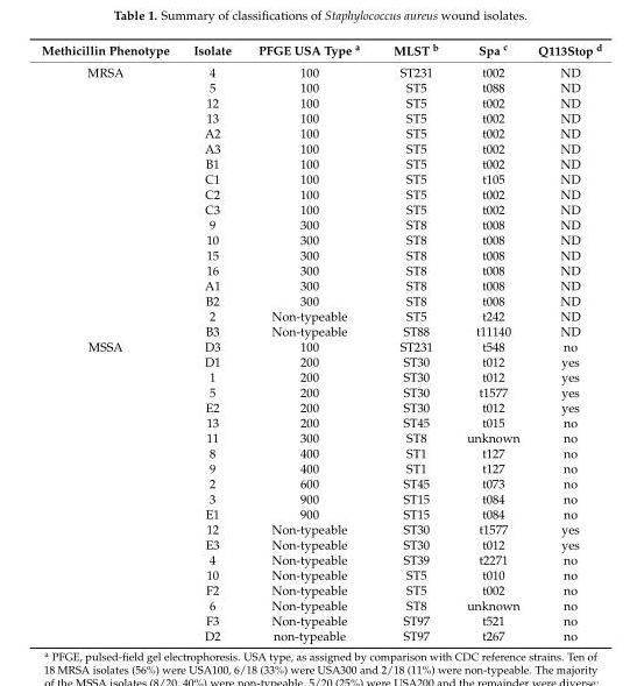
<table><thead><tr><td>Methicillin Phenotype</td><td>Isolate</td><td>PFGE USA Type <sup>a</sup></td><td>MLST <sup>b</sup></td><td>Spa <sup>c</sup></td><td>Q113Stop <sup>d</sup></td></tr></thead><tbody><tr><td rowspan="18">MRSA</td><td>4</td><td>100</td><td>ST231</td><td>t002</td><td>ND</td></tr><tr><td>5</td><td>100</td><td>ST5</td><td>t088</td><td>ND</td></tr><tr><td>12</td><td>100</td><td>ST5</td><td>t002</td><td>ND</td></tr><tr><td>13</td><td>100</td><td>ST5</td><td>t002</td><td>ND</td></tr><tr><td>A2</td><td>100</td><td>ST5</td><td>t002</td><td>ND</td></tr><tr><td>A3</td><td>100</td><td>ST5</td><td>t002</td><td>ND</td></tr><tr><td>B1</td><td>100</td><td>ST5</td><td>t002</td><td>ND</td></tr><tr><td>C1</td><td>100</td><td>ST5</td><td>t105</td><td>ND</td></tr><tr><td>C2</td><td>100</td><td>ST5</td><td>t002</td><td>ND</td></tr><tr><td>C3</td><td>100</td><td>ST5</td><td>t002</td><td>ND</td></tr><tr><td>9</td><td>300</td><td>ST8</td><td>t008</td><td>ND</td></tr><tr><td>10</td><td>300</td><td>ST8</td><td>t008</td><td>ND</td></tr><tr><td>15</td><td>300</td><td>ST8</td><td>t008</td><td>ND</td></tr><tr><td>16</td><td>300</td><td>ST8</td><td>t008</td><td>ND</td></tr><tr><td>A1</td><td>300</td><td>ST8</td><td>t008</td><td>ND</td></tr><tr><td>B2</td><td>300</td><td>ST8</td><td>t008</td><td>ND</td></tr><tr><td>2</td><td>Non-typeable</td><td>ST5</td><td>t242</td><td>ND</td></tr><tr><td>B3</td><td>Non-typeable</td><td>ST88</td><td>t11140</td><td>ND</td></tr><tr><td rowspan="20">MSSA</td><td>D3</td><td>100</td><td>ST231</td><td>t548</td><td>no</td></tr><tr><td>D1</td><td>200</td><td>ST30</td><td>t012</td><td>yes</td></tr><tr><td>1</td><td>200</td><td>ST30</td><td>t012</td><td>yes</td></tr><tr><td>5</td><td>200</td><td>ST30</td><td>t1577</td><td>yes</td></tr><tr><td>E2</td><td>200</td><td>ST30</td><td>t012</td><td>yes</td></tr><tr><td>13</td><td>200</td><td>ST45</td><td>t015</td><td>no</td></tr><tr><td>11</td><td>300</td><td>ST8</td><td>unknown</td><td>no</td></tr><tr><td>8</td><td>400</td><td>ST1</td><td>t127</td><td>no</td></tr><tr><td>9</td><td>400</td><td>ST1</td><td>t127</td><td>no</td></tr><tr><td>2</td><td>600</td><td>ST45</td><td>t073</td><td>no</td></tr><tr><td>3</td><td>900</td><td>ST15</td><td>t084</td><td>no</td></tr><tr><td>E1</td><td>900</td><td>ST15</td><td>t084</td><td>no</td></tr><tr><td>12</td><td>Non-typeable</td><td>ST30</td><td>t1577</td><td>yes</td></tr><tr><td>E3</td><td>Non-typeable</td><td>ST30</td><td>t012</td><td>yes</td></tr><tr><td>4</td><td>Non-typeable</td><td>ST39</td><td>t2271</td><td>no</td></tr><tr><td>10</td><td>Non-typeable</td><td>ST5</td><td>t010</td><td>no</td></tr><tr><td>F2</td><td>Non-typeable</td><td>ST5</td><td>t002</td><td>no</td></tr><tr><td>6</td><td>Non-typeable</td><td>ST8</td><td>unknown</td><td>no</td></tr><tr><td>F3</td><td>Non-typeable</td><td>ST97</td><td>t521</td><td>no</td></tr><tr><td>D2</td><td>non-typeable</td><td>ST97</td><td>t267</td><td>no</td></tr></tbody></table>